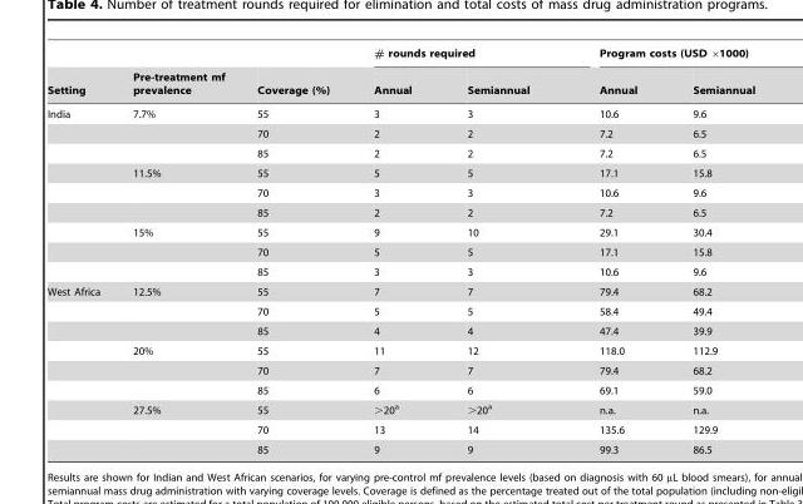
<table><thead><tr><td rowspan="2">Setting</td><td rowspan="2">Pre-treatment mf prevalence</td><td rowspan="2">Coverage (%)</td><td colspan="2"># rounds required</td><td colspan="2">Program costs (USD ×1000)</td></tr><tr><td>Annual</td><td>Semiannual</td><td>Annual</td><td>Semiannual</td></tr></thead><tbody><tr><td rowspan="9">India</td><td>7.7%</td><td>55</td><td>3</td><td>3</td><td>10.6</td><td>9.6</td></tr><tr><td></td><td>70</td><td>2</td><td>2</td><td>7.2</td><td>6.5</td></tr><tr><td></td><td>85</td><td>2</td><td>2</td><td>7.2</td><td>6.5</td></tr><tr><td>11.5%</td><td>55</td><td>5</td><td>5</td><td>17.1</td><td>15.8</td></tr><tr><td></td><td>70</td><td>3</td><td>3</td><td>10.6</td><td>9.6</td></tr><tr><td></td><td>85</td><td>2</td><td>2</td><td>7.2</td><td>6.5</td></tr><tr><td>15%</td><td>55</td><td>9</td><td>10</td><td>29.1</td><td>30.4</td></tr><tr><td></td><td>70</td><td>5</td><td>5</td><td>17.1</td><td>15.8</td></tr><tr><td></td><td>85</td><td>3</td><td>3</td><td>10.6</td><td>9.6</td></tr><tr><td rowspan="9">West Africa</td><td>12.5%</td><td>55</td><td>7</td><td>7</td><td>79.4</td><td>68.2</td></tr><tr><td></td><td>70</td><td>5</td><td>5</td><td>58.4</td><td>49.4</td></tr><tr><td></td><td>85</td><td>4</td><td>4</td><td>47.4</td><td>39.9</td></tr><tr><td>20%</td><td>55</td><td>11</td><td>12</td><td>118.0</td><td>112.9</td></tr><tr><td></td><td>70</td><td>7</td><td>7</td><td>79.4</td><td>68.2</td></tr><tr><td></td><td>85</td><td>6</td><td>6</td><td>69.1</td><td>59.0</td></tr><tr><td>27.5%</td><td>55</td><td>&gt;20<sup>a</sup></td><td>&gt;20<sup>a</sup></td><td>n.a.</td><td>n.a.</td></tr><tr><td></td><td>70</td><td>13</td><td>14</td><td>135.6</td><td>129.9</td></tr><tr><td></td><td>85</td><td>9</td><td>9</td><td>99.3</td><td>86.5</td></tr></tbody></table>